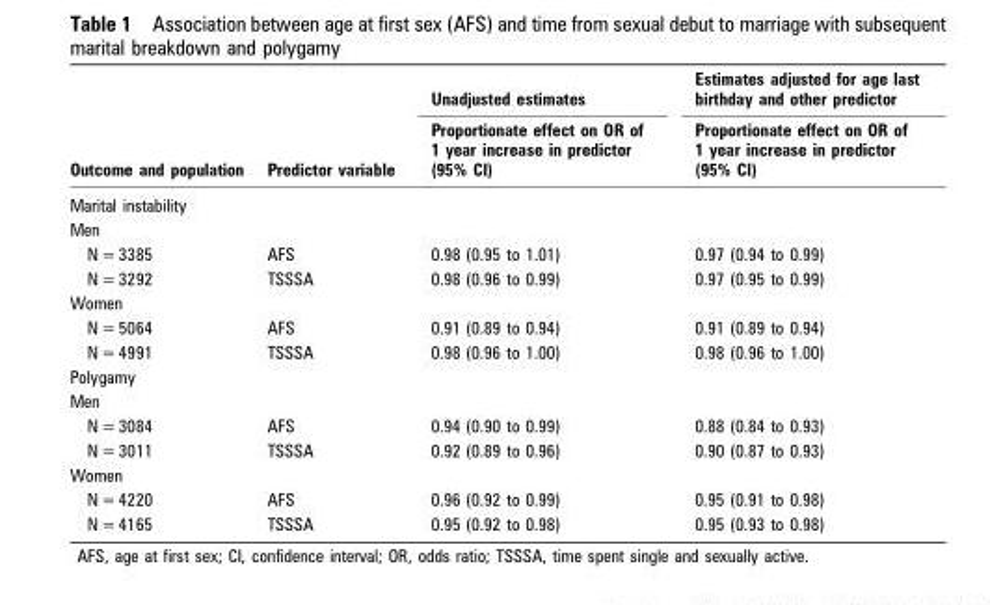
<table><thead><tr><td rowspan="2">Outcome and population</td><td rowspan="2">Predictor variable</td><td rowspan="2">Unadjusted estimates Proportionate effect on OR of 1 year increase in predictor (95% CI)</td><td rowspan="2">Estimates adjusted for age last birthday and other predictor Proportionate effect on OR of 1 year increase in predictor (95% CI)</td></tr><tr></tr></thead><tbody><tr><td colspan="4">Marital instability</td></tr><tr><td colspan="4">Men</td></tr><tr><td>N = 3385</td><td>AFS</td><td>0.98 (0.95 to 1.01)</td><td>0.97 (0.94 to 0.99)</td></tr><tr><td>N = 3292</td><td>TSSSA</td><td>0.98 (0.96 to 0.99)</td><td>0.97 (0.95 to 0.99)</td></tr><tr><td colspan="4">Women</td></tr><tr><td>N = 5064</td><td>AFS</td><td>0.91 (0.89 to 0.94)</td><td>0.91 (0.89 to 0.94)</td></tr><tr><td>N = 4991</td><td>TSSSA</td><td>0.98 (0.96 to 1.00)</td><td>0.98 (0.96 to 1.00)</td></tr><tr><td colspan="4">Polygamy</td></tr><tr><td colspan="4">Men</td></tr><tr><td>N = 3084</td><td>AFS</td><td>0.94 (0.90 to 0.99)</td><td>0.88 (0.84 to 0.93)</td></tr><tr><td>N = 3011</td><td>TSSSA</td><td>0.92 (0.89 to 0.96)</td><td>0.90 (0.87 to 0.93)</td></tr><tr><td colspan="4">Women</td></tr><tr><td>N = 4220</td><td>AFS</td><td>0.96 (0.92 to 0.99)</td><td>0.95 (0.91 to 0.98)</td></tr><tr><td>N = 4165</td><td>TSSSA</td><td>0.95 (0.92 to 0.98)</td><td>0.95 (0.93 to 0.98)</td></tr></tbody></table>